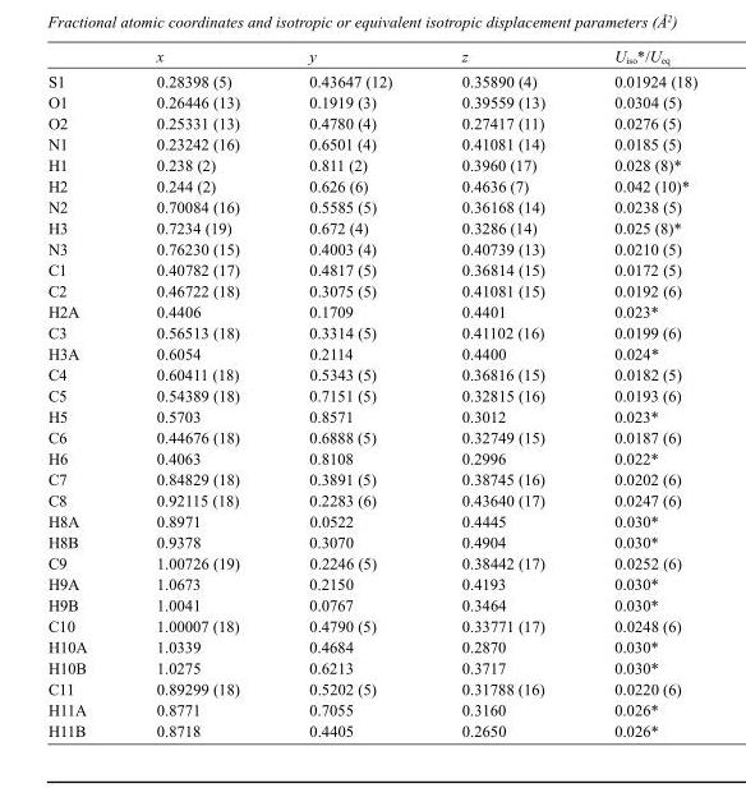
<table><thead><tr><td></td><td>x</td><td>y</td><td>z</td><td>U<sub>iso</sub>*/U<sub>eq</sub></td></tr></thead><tbody><tr><td>S1</td><td>0.28398 (5)</td><td>0.43647 (12)</td><td>0.35890 (4)</td><td>0.01924 (18)</td></tr><tr><td>O1</td><td>0.26446 (13)</td><td>0.1919 (3)</td><td>0.39559 (13)</td><td>0.0304 (5)</td></tr><tr><td>O2</td><td>0.25331 (13)</td><td>0.4780 (4)</td><td>0.27417 (11)</td><td>0.0276 (5)</td></tr><tr><td>N1</td><td>0.23242 (16)</td><td>0.6501 (4)</td><td>0.41081 (14)</td><td>0.0185 (5)</td></tr><tr><td>H1</td><td>0.238 (2)</td><td>0.811 (2)</td><td>0.3960 (17)</td><td>0.028 (8)*</td></tr><tr><td>H2</td><td>0.244 (2)</td><td>0.626 (6)</td><td>0.4636 (7)</td><td>0.042 (10)*</td></tr><tr><td>N2</td><td>0.70084 (16)</td><td>0.5585 (5)</td><td>0.36168 (14)</td><td>0.0238 (5)</td></tr><tr><td>H3</td><td>0.7234 (19)</td><td>0.672 (4)</td><td>0.3286 (14)</td><td>0.025 (8)*</td></tr><tr><td>N3</td><td>0.76230 (15)</td><td>0.4003 (4)</td><td>0.40739 (13)</td><td>0.0210 (5)</td></tr><tr><td>C1</td><td>0.40782 (17)</td><td>0.4817 (5)</td><td>0.36814 (15)</td><td>0.0172 (5)</td></tr><tr><td>C2</td><td>0.46722 (18)</td><td>0.3075 (5)</td><td>0.41081 (15)</td><td>0.0192 (6)</td></tr><tr><td>H2A</td><td>0.4406</td><td>0.1709</td><td>0.4401</td><td>0.023*</td></tr><tr><td>C3</td><td>0.56513 (18)</td><td>0.3314 (5)</td><td>0.41102 (16)</td><td>0.0199 (6)</td></tr><tr><td>H3A</td><td>0.6054</td><td>0.2114</td><td>0.4400</td><td>0.024*</td></tr><tr><td>C4</td><td>0.60411 (18)</td><td>0.5343 (5)</td><td>0.36816 (15)</td><td>0.0182 (5)</td></tr><tr><td>C5</td><td>0.54389 (18)</td><td>0.7151 (5)</td><td>0.32815 (16)</td><td>0.0193 (6)</td></tr><tr><td>H5</td><td>0.5703</td><td>0.8571</td><td>0.3012</td><td>0.023*</td></tr><tr><td>C6</td><td>0.44676 (18)</td><td>0.6888 (5)</td><td>0.32749 (15)</td><td>0.0187 (6)</td></tr><tr><td>H6</td><td>0.4063</td><td>0.8108</td><td>0.2996</td><td>0.022*</td></tr><tr><td>C7</td><td>0.84829 (18)</td><td>0.3891 (5)</td><td>0.38745 (16)</td><td>0.0202 (6)</td></tr><tr><td>C8</td><td>0.92115 (18)</td><td>0.2283 (6)</td><td>0.43640 (17)</td><td>0.0247 (6)</td></tr><tr><td>H8A</td><td>0.8971</td><td>0.0522</td><td>0.4445</td><td>0.030*</td></tr><tr><td>H8B</td><td>0.9378</td><td>0.3070</td><td>0.4904</td><td>0.030*</td></tr><tr><td>C9</td><td>1.00726 (19)</td><td>0.2246 (5)</td><td>0.38442 (17)</td><td>0.0252 (6)</td></tr><tr><td>H9A</td><td>1.0673</td><td>0.2150</td><td>0.4193</td><td>0.030*</td></tr><tr><td>H9B</td><td>1.0041</td><td>0.0767</td><td>0.3464</td><td>0.030*</td></tr><tr><td>C10</td><td>1.00007 (18)</td><td>0.4790 (5)</td><td>0.33771 (17)</td><td>0.0248 (6)</td></tr><tr><td>H10A</td><td>1.0339</td><td>0.4684</td><td>0.2870</td><td>0.030*</td></tr><tr><td>H10B</td><td>1.0275</td><td>0.6213</td><td>0.3717</td><td>0.030*</td></tr><tr><td>C11</td><td>0.89299 (18)</td><td>0.5202 (5)</td><td>0.31788 (16)</td><td>0.0220 (6)</td></tr><tr><td>H11A</td><td>0.8771</td><td>0.7055</td><td>0.3160</td><td>0.026*</td></tr><tr><td>H11B</td><td>0.8718</td><td>0.4405</td><td>0.2650</td><td>0.026*</td></tr></tbody></table>